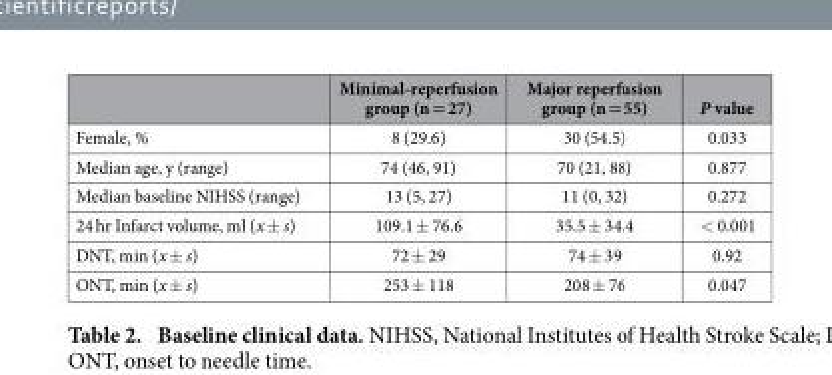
<table><thead><tr><td></td><td>Minimal-reperfusion group (n = 27)</td><td>Major reperfusion group (n = 55)</td><td>P value</td></tr></thead><tbody><tr><td>Female, %</td><td>8 (29.6)</td><td>30 (54.5)</td><td>0.033</td></tr><tr><td>Median age, y (range)</td><td>74 (46, 91)</td><td>70 (21, 88)</td><td>0.877</td></tr><tr><td>Median baseline NIHSS (range)</td><td>13 (5, 27)</td><td>11 (0, 32)</td><td>0.272</td></tr><tr><td>24 hr Infarct volume, ml (x ± s)</td><td>109.1 ± 76.6</td><td>35.5 ± 34.4</td><td>&lt; 0.001</td></tr><tr><td>DNT, min (x ± s)</td><td>72 ± 29</td><td>74 ± 39</td><td>0.92</td></tr><tr><td>ONT, min (x ± s)</td><td>253 ± 118</td><td>208 ± 76</td><td>0.047</td></tr></tbody></table>